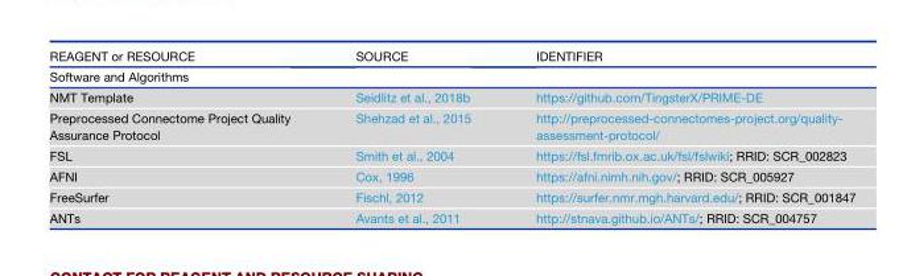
<table><thead><tr><td>REAGENT or RESOURCE</td><td>SOURCE</td><td>IDENTIFIER</td></tr></thead><tbody><tr><td colspan="3">Software and Algorithms</td></tr><tr><td>NMT Template</td><td>Seidlitz et al., 2018b</td><td>https://github.com/TingsterX/PRIME-DE</td></tr><tr><td>Preprocessed Connectome Project Quality Assurance Protocol</td><td>Shehzad et al., 2015</td><td>http://preprocessed-connectomes-project.org/quality- assessment-protocol/</td></tr><tr><td>FSL</td><td>Smith et al., 2004</td><td>https://fsl.fmrib.ox.ac.uk/fsl/fslwiki; RRID: SCR_002823</td></tr><tr><td>AFNI</td><td>Cox, 1996</td><td>https://afni.nimh.nih.gov/; RRID: SCR_005927</td></tr><tr><td>FreeSurfer</td><td>Fischl, 2012</td><td>https://surfer.nmr.mgh.harvard.edu/; RRID: SCR_001847</td></tr><tr><td>ANTs</td><td>Avants et al., 2011</td><td>http://stnava.github.io/ANTs/; RRID: SCR_004757</td></tr></tbody></table>